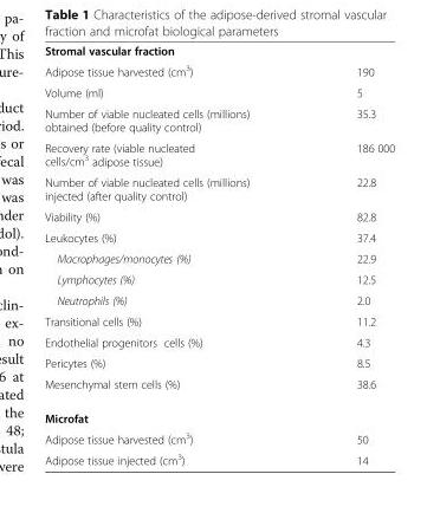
<table><tbody><tr><td colspan="2">Stromal vascular fraction</td></tr><tr><td>Adipose tissue harvested (cm<sup>3</sup>)</td><td>190</td></tr><tr><td>Volume (ml)</td><td>5</td></tr><tr><td>Number of viable nucleated cells (millions) obtained (before quality control)</td><td>35.3</td></tr><tr><td>Recovery rate (viable nucleated cells/cm<sup>3</sup> adipose tissue)</td><td>186 000</td></tr><tr><td>Number of viable nucleated cells (millions) injected (after quality control)</td><td>22.8</td></tr><tr><td>Viability (%)</td><td>82.8</td></tr><tr><td>Leukocytes (%)</td><td>37.4</td></tr><tr><td>Macrophages/monocytes (%)</td><td>22.9</td></tr><tr><td>Lymphocytes (%)</td><td>12.5</td></tr><tr><td>Neutrophils (%)</td><td>2.0</td></tr><tr><td>Transitional cells (%)</td><td>11.2</td></tr><tr><td>Endothelial progenitors cells (%)</td><td>4.3</td></tr><tr><td>Pericytes (%)</td><td>8.5</td></tr><tr><td>Mesenchymal stem cells (%)</td><td>38.6</td></tr><tr><td colspan="2">Microfat</td></tr><tr><td>Adipose tissue harvested (cm<sup>3</sup>)</td><td>50</td></tr><tr><td>Adipose tissue injected (cm<sup>3</sup>)</td><td>14</td></tr></tbody></table>